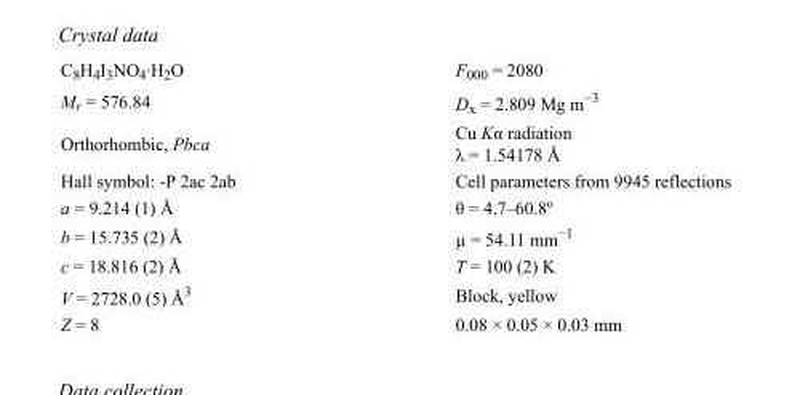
<table><tbody><tr><td>C<sub>8</sub>H<sub>4</sub>I<sub>3</sub>NO<sub>4</sub>·H<sub>2</sub>O</td><td>F<sub>000</sub> = 2080</td></tr><tr><td>M<sub>r</sub> = 576.84</td><td>D<sub>x</sub> = 2.809 Mg m<sup>−3</sup></td></tr><tr><td>Orthorhombic, Pbca</td><td>Cu Kα radiation λ = 1.54178 Å</td></tr><tr><td>Hall symbol: -P 2ac 2ab</td><td>Cell parameters from 9945 reflections</td></tr><tr><td>a = 9.214 (1) Å</td><td>θ = 4.7–60.8º</td></tr><tr><td>b = 15.735 (2) Å</td><td>µ = 54.11 mm<sup>−1</sup></td></tr><tr><td>c = 18.816 (2) Å</td><td>T = 100 (2) K</td></tr><tr><td>V = 2728.0 (5) Å<sup>3</sup></td><td>Block, yellow</td></tr><tr><td>Z = 8</td><td>0.08 × 0.05 × 0.03 mm</td></tr></tbody></table>